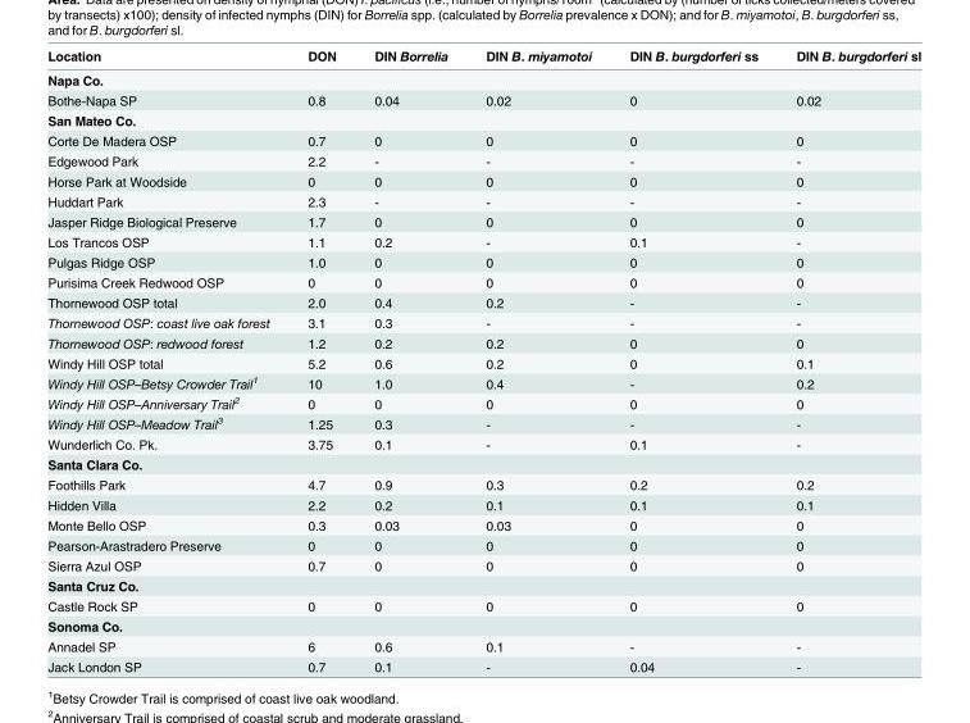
<table><thead><tr><td>Location</td><td>DON</td><td>DIN Borrelia</td><td>DIN B. miyamotoi</td><td>DIN B. burgdorferi ss</td><td>DIN B. burgdorferi sl</td></tr></thead><tbody><tr><td colspan="6">Napa Co.</td></tr><tr><td>Bothe-Napa SP</td><td>0.8</td><td>0.04</td><td>0.02</td><td>0</td><td>0.02</td></tr><tr><td colspan="6">San Mateo Co.</td></tr><tr><td>Corte De Madera OSP</td><td>0.7</td><td>0</td><td>0</td><td>0</td><td>0</td></tr><tr><td>Edgewood Park</td><td>2.2</td><td>-</td><td>-</td><td>-</td><td>-</td></tr><tr><td>Horse Park at Woodside</td><td>0</td><td>0</td><td>0</td><td>0</td><td>0</td></tr><tr><td>Huddart Park</td><td>2.3</td><td>-</td><td>-</td><td>-</td><td>-</td></tr><tr><td>Jasper Ridge Biological Preserve</td><td>1.7</td><td>0</td><td>0</td><td>0</td><td>0</td></tr><tr><td>Los Trancos OSP</td><td>1.1</td><td>0.2</td><td>-</td><td>0.1</td><td>-</td></tr><tr><td>Pulgas Ridge OSP</td><td>1.0</td><td>0</td><td>0</td><td>0</td><td>0</td></tr><tr><td>Purisima Creek Redwood OSP</td><td>0</td><td>0</td><td>0</td><td>0</td><td>0</td></tr><tr><td>Thornewood OSP total</td><td>2.0</td><td>0.4</td><td>0.2</td><td>-</td><td>-</td></tr><tr><td>Thornewood OSP: coast live oak forest</td><td>3.1</td><td>0.3</td><td>-</td><td>-</td><td>-</td></tr><tr><td>Thornewood OSP: redwood forest</td><td>1.2</td><td>0.2</td><td>0.2</td><td>0</td><td>0</td></tr><tr><td>Windy Hill OSP total</td><td>5.2</td><td>0.6</td><td>0.2</td><td>0</td><td>0.1</td></tr><tr><td>Windy Hill OSP–Betsy Crowder Trail<sup>1</sup></td><td>10</td><td>1.0</td><td>0.4</td><td>-</td><td>0.2</td></tr><tr><td>Windy Hill OSP–Anniversary Trail<sup>2</sup></td><td>0</td><td>0</td><td>0</td><td>0</td><td>0</td></tr><tr><td>Windy Hill OSP–Meadow Trail<sup>3</sup></td><td>1.25</td><td>0.3</td><td>-</td><td>-</td><td>-</td></tr><tr><td>Wunderlich Co. Pk.</td><td>3.75</td><td>0.1</td><td>-</td><td>0.1</td><td>-</td></tr><tr><td colspan="6">Santa Clara Co.</td></tr><tr><td>Foothills Park</td><td>4.7</td><td>0.9</td><td>0.3</td><td>0.2</td><td>0.2</td></tr><tr><td>Hidden Villa</td><td>2.2</td><td>0.2</td><td>0.1</td><td>0.1</td><td>0.1</td></tr><tr><td>Monte Bello OSP</td><td>0.3</td><td>0.03</td><td>0.03</td><td>0</td><td>0</td></tr><tr><td>Pearson-Arastradero Preserve</td><td>0</td><td>0</td><td>0</td><td>0</td><td>0</td></tr><tr><td>Sierra Azul OSP</td><td>0.7</td><td>0</td><td>0</td><td>0</td><td>0</td></tr><tr><td colspan="6">Santa Cruz Co.</td></tr><tr><td>Castle Rock SP</td><td>0</td><td>0</td><td>0</td><td>0</td><td>0</td></tr><tr><td colspan="6">Sonoma Co.</td></tr><tr><td>Annadel SP</td><td>6</td><td>0.6</td><td>0.1</td><td>-</td><td>-</td></tr><tr><td>Jack London SP</td><td>0.7</td><td>0.1</td><td>-</td><td>0.04</td><td>-</td></tr></tbody></table>